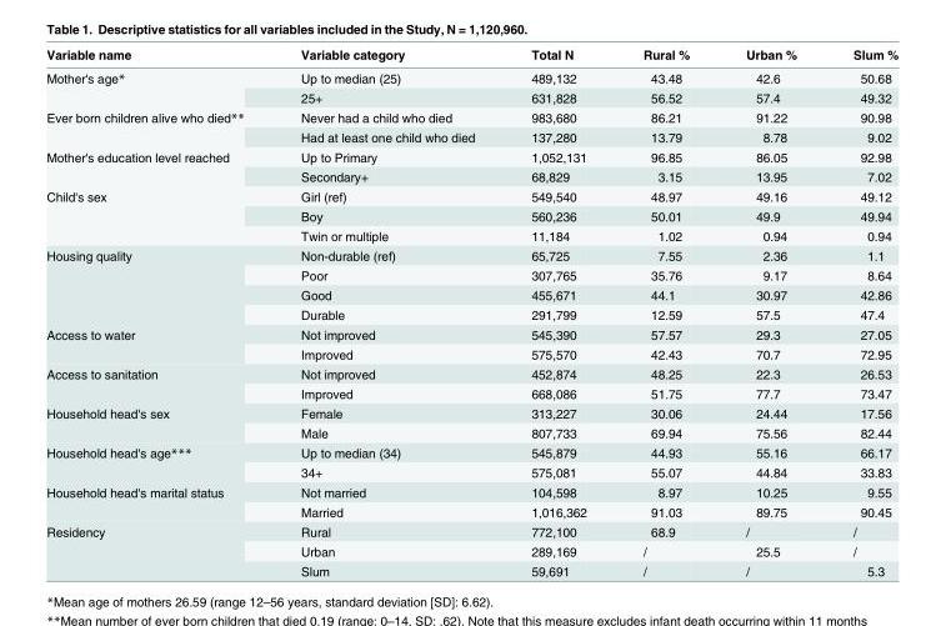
<table><thead><tr><td>Variable name</td><td>Variable category</td><td>Total N</td><td>Rural %</td><td>Urban %</td><td>Slum %</td></tr></thead><tbody><tr><td rowspan="2">Mother&#x27;s age*</td><td>Up to median (25)</td><td>489,132</td><td>43.48</td><td>42.6</td><td>50.68</td></tr><tr><td>25+</td><td>631,828</td><td>56.52</td><td>57.4</td><td>49.32</td></tr><tr><td rowspan="2">Ever born children alive who died**</td><td>Never had a child who died</td><td>983,680</td><td>86.21</td><td>91.22</td><td>90.98</td></tr><tr><td>Had at least one child who died</td><td>137,280</td><td>13.79</td><td>8.78</td><td>9.02</td></tr><tr><td rowspan="2">Mother&#x27;s education level reached</td><td>Up to Primary</td><td>1,052,131</td><td>96.85</td><td>86.05</td><td>92.98</td></tr><tr><td>Secondary+</td><td>68,829</td><td>3.15</td><td>13.95</td><td>7.02</td></tr><tr><td rowspan="3">Child&#x27;s sex</td><td>Girl (ref)</td><td>549,540</td><td>48.97</td><td>49.16</td><td>49.12</td></tr><tr><td>Boy</td><td>560,236</td><td>50.01</td><td>49.9</td><td>49.94</td></tr><tr><td>Twin or multiple</td><td>11,184</td><td>1.02</td><td>0.94</td><td>0.94</td></tr><tr><td rowspan="4">Housing quality</td><td>Non-durable (ref)</td><td>65,725</td><td>7.55</td><td>2.36</td><td>1.1</td></tr><tr><td>Poor</td><td>307,765</td><td>35.76</td><td>9.17</td><td>8.64</td></tr><tr><td>Good</td><td>455,671</td><td>44.1</td><td>30.97</td><td>42.86</td></tr><tr><td>Durable</td><td>291,799</td><td>12.59</td><td>57.5</td><td>47.4</td></tr><tr><td rowspan="2">Access to water</td><td>Not improved</td><td>545,390</td><td>57.57</td><td>29.3</td><td>27.05</td></tr><tr><td>Improved</td><td>575,570</td><td>42.43</td><td>70.7</td><td>72.95</td></tr><tr><td rowspan="2">Access to sanitation</td><td>Not improved</td><td>452,874</td><td>48.25</td><td>22.3</td><td>26.53</td></tr><tr><td>Improved</td><td>668,086</td><td>51.75</td><td>77.7</td><td>73.47</td></tr><tr><td rowspan="2">Household head&#x27;s sex</td><td>Female</td><td>313,227</td><td>30.06</td><td>24.44</td><td>17.56</td></tr><tr><td>Male</td><td>807,733</td><td>69.94</td><td>75.56</td><td>82.44</td></tr><tr><td rowspan="2">Household head&#x27;s age***</td><td>Up to median (34)</td><td>545,879</td><td>44.93</td><td>55.16</td><td>66.17</td></tr><tr><td>34+</td><td>575,081</td><td>55.07</td><td>44.84</td><td>33.83</td></tr><tr><td rowspan="2">Household head&#x27;s marital status</td><td>Not married</td><td>104,598</td><td>8.97</td><td>10.25</td><td>9.55</td></tr><tr><td>Married</td><td>1,016,362</td><td>91.03</td><td>89.75</td><td>90.45</td></tr><tr><td rowspan="3">Residency</td><td>Rural</td><td>772,100</td><td>68.9</td><td>/</td><td>/</td></tr><tr><td>Urban</td><td>289,169</td><td>/</td><td>25.5</td><td>/</td></tr><tr><td>Slum</td><td>59,691</td><td>/</td><td>/</td><td>5.3</td></tr></tbody></table>